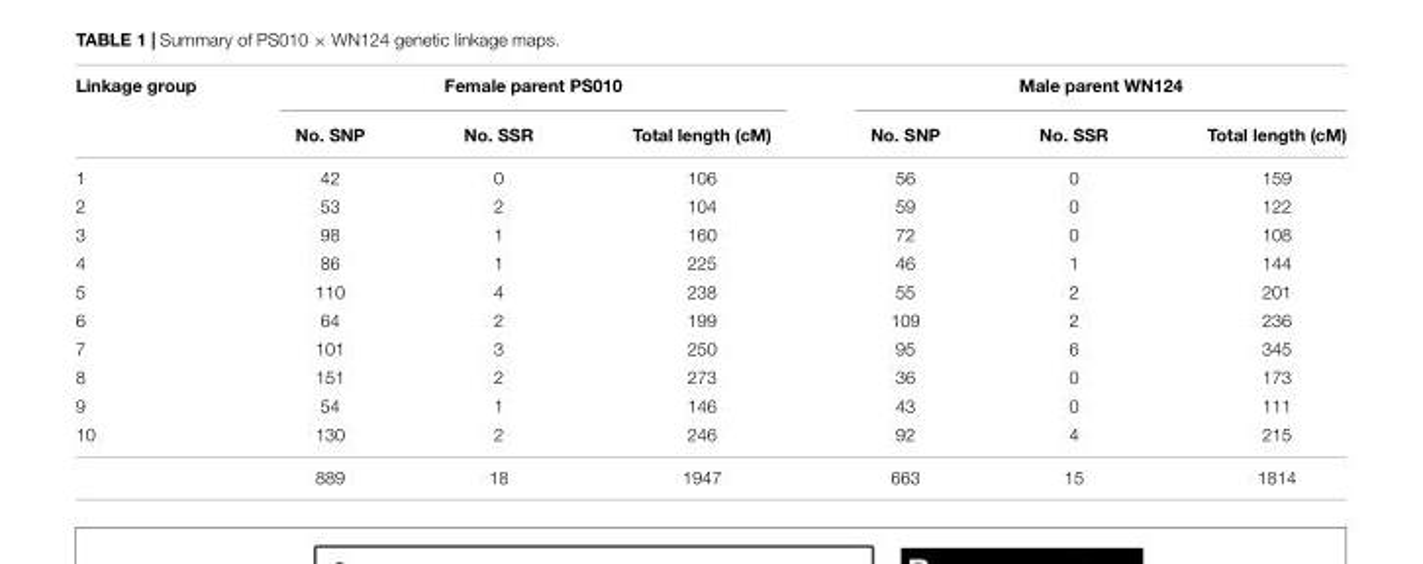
<table><thead><tr><td rowspan="2">Linkage group</td><td colspan="3">Female parent PS010</td><td colspan="3">Male parent WN124</td></tr><tr><td>No. SNP</td><td>No. SSR</td><td>Total length (cM)</td><td>No. SNP</td><td>No. SSR</td><td>Total length (cM)</td></tr></thead><tbody><tr><td>1</td><td>42</td><td>0</td><td>106</td><td>56</td><td>0</td><td>159</td></tr><tr><td>2</td><td>53</td><td>2</td><td>104</td><td>59</td><td>0</td><td>122</td></tr><tr><td>3</td><td>98</td><td>1</td><td>160</td><td>72</td><td>0</td><td>108</td></tr><tr><td>4</td><td>86</td><td>1</td><td>225</td><td>46</td><td>1</td><td>144</td></tr><tr><td>5</td><td>110</td><td>4</td><td>238</td><td>55</td><td>2</td><td>201</td></tr><tr><td>6</td><td>64</td><td>2</td><td>199</td><td>109</td><td>2</td><td>236</td></tr><tr><td>7</td><td>101</td><td>3</td><td>250</td><td>95</td><td>6</td><td>345</td></tr><tr><td>8</td><td>151</td><td>2</td><td>273</td><td>36</td><td>0</td><td>173</td></tr><tr><td>9</td><td>54</td><td>1</td><td>146</td><td>43</td><td>0</td><td>111</td></tr><tr><td rowspan="2">10</td><td>130</td><td>2</td><td>246</td><td>92</td><td>4</td><td>215</td></tr><tr><td>889</td><td>18</td><td>1947</td><td>663</td><td>15</td><td>1814</td></tr></tbody></table>